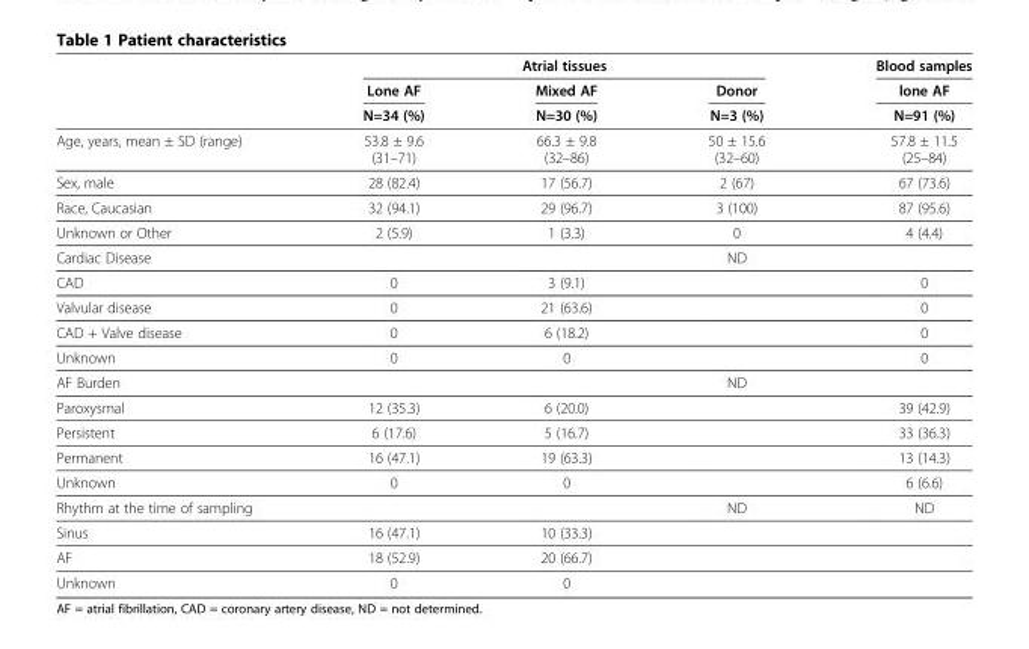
<table><thead><tr><td rowspan="3"></td><td colspan="3">Atrial tissues</td><td rowspan="3">Blood samples lone AF N=91 (%)</td></tr><tr><td rowspan="2">Lone AF N=34 (%)</td><td rowspan="2">Mixed AF N=30 (%)</td><td rowspan="2">Donor N=3 (%)</td></tr><tr></tr></thead><tbody><tr><td rowspan="2">Age, years, mean ± SD (range)</td><td>53.8 ± 9.6</td><td>66.3 ± 9.8</td><td>50 ± 15.6</td><td>57.8 ± 11.5</td></tr><tr><td>(31–71)</td><td>(32–86)</td><td>(32–60)</td><td>(25–84)</td></tr><tr><td>Sex, male</td><td>28 (82.4)</td><td>17 (56.7)</td><td>2 (67)</td><td>67 (73.6)</td></tr><tr><td>Race, Caucasian</td><td>32 (94.1)</td><td>29 (96.7)</td><td>3 (100)</td><td>87 (95.6)</td></tr><tr><td>Unknown or Other</td><td>2 (5.9)</td><td>1 (3.3)</td><td>0</td><td>4 (4.4)</td></tr><tr><td>Cardiac Disease</td><td></td><td></td><td>ND</td><td></td></tr><tr><td>CAD</td><td>0</td><td>3 (9.1)</td><td></td><td>0</td></tr><tr><td>Valvular disease</td><td>0</td><td>21 (63.6)</td><td></td><td>0</td></tr><tr><td>CAD + Valve disease</td><td>0</td><td>6 (18.2)</td><td></td><td>0</td></tr><tr><td>Unknown</td><td>0</td><td>0</td><td></td><td>0</td></tr><tr><td>AF Burden</td><td></td><td></td><td>ND</td><td></td></tr><tr><td>Paroxysmal</td><td>12 (35.3)</td><td>6 (20.0)</td><td></td><td>39 (42.9)</td></tr><tr><td>Persistent</td><td>6 (17.6)</td><td>5 (16.7)</td><td></td><td>33 (36.3)</td></tr><tr><td>Permanent</td><td>16 (47.1)</td><td>19 (63.3)</td><td></td><td>13 (14.3)</td></tr><tr><td>Unknown</td><td>0</td><td>0</td><td></td><td>6 (6.6)</td></tr><tr><td>Rhythm at the time of sampling</td><td></td><td></td><td>ND</td><td>ND</td></tr><tr><td>Sinus</td><td>16 (47.1)</td><td>10 (33.3)</td><td></td><td></td></tr><tr><td>AF</td><td>18 (52.9)</td><td>20 (66.7)</td><td></td><td></td></tr><tr><td>Unknown</td><td>0</td><td>0</td><td></td><td></td></tr></tbody></table>